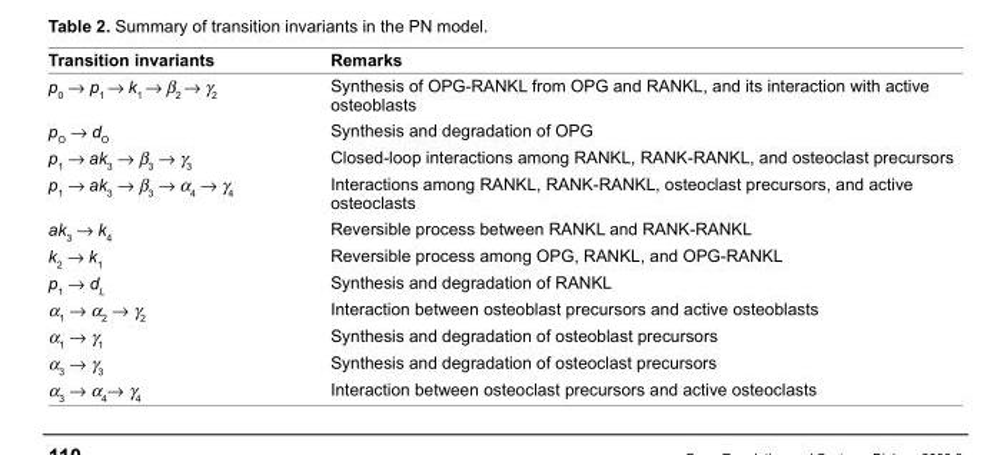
<table><thead><tr><td>Transition invariants</td><td>Remarks</td></tr></thead><tbody><tr><td>p<sub>0</sub> → p<sub>1</sub> → k<sub>1</sub> → β<sub>2</sub> → γ<sub>2</sub></td><td>Synthesis of OPG-RAnKL from OPG and RAnKL, and its interaction with active osteoblasts</td></tr><tr><td>p<sub>O</sub> → d<sub>O</sub></td><td>Synthesis and degradation of OPG</td></tr><tr><td>p<sub>1</sub> → ak<sub>3</sub> → β<sub>3</sub> → γ<sub>3</sub></td><td>Closed-loop interactions among RAnKL, RAnK-RAnKL, and osteoclast precursors</td></tr><tr><td>p<sub>1</sub> → ak<sub>3</sub> → β<sub>3</sub> → α<sub>4</sub> → γ<sub>4</sub></td><td>interactions among RAnKL, RAnK-RAnKL, osteoclast precursors, and active osteoclasts</td></tr><tr><td>ak<sub>3</sub> → k<sub>4</sub></td><td>Reversible process between RAnKL and RAnK-RAnKL</td></tr><tr><td>k<sub>2</sub> → k<sub>1</sub></td><td>Reversible process among OPG, RAnKL, and OPG-RAnKL</td></tr><tr><td>p<sub>1</sub> → d<sub>L</sub></td><td>Synthesis and degradation of RAnKL</td></tr><tr><td>α<sub>1</sub> → α<sub>2</sub> → γ<sub>2</sub></td><td>interaction between osteoblast precursors and active osteoblasts</td></tr><tr><td>α<sub>1</sub> → γ<sub>1</sub></td><td>Synthesis and degradation of osteoblast precursors</td></tr><tr><td>α<sub>3</sub> → γ<sub>3</sub></td><td>Synthesis and degradation of osteoclast precursors</td></tr><tr><td>α<sub>3</sub> → α<sub>4</sub>→ γ<sub>4</sub></td><td>interaction between osteoclast precursors and active osteoclasts</td></tr></tbody></table>